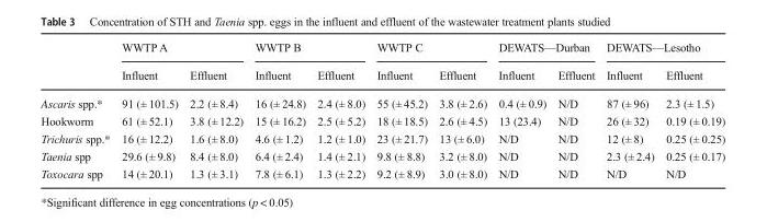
<table><thead><tr><td rowspan="2"></td><td colspan="2">WWTP A</td><td colspan="2">WWTP B</td><td colspan="2">WWTP C</td><td colspan="2">DEWATS—Durban</td><td colspan="2">DEWATS—Lesotho</td></tr><tr><td>Influent</td><td>Effluent</td><td>Influent</td><td>Effluent</td><td>Influent</td><td>Effluent</td><td>Influent</td><td>Effluent</td><td>Influent</td><td>Effluent</td></tr></thead><tbody><tr><td>Ascaris spp.*</td><td>91 (± 101.5)</td><td>2.2 (± 8.4)</td><td>16 (± 24.8)</td><td>2.4 (± 8.0)</td><td>55 (± 45.2)</td><td>3.8 (± 2.6)</td><td>0.4 (± 0.9)</td><td>N/D</td><td>87 (± 96)</td><td>2.3 (± 1.5)</td></tr><tr><td>Hookworm</td><td>61 (± 52.1)</td><td>3.8 (± 12.2)</td><td>15 (± 16.2)</td><td>2.5 (± 5.2)</td><td>18 (± 18.5)</td><td>2.6 (± 4.5)</td><td>13 (23.4)</td><td>N/D</td><td>26 (± 32)</td><td>0.19 (± 0.19)</td></tr><tr><td>Trichuris spp.*</td><td>16 (± 12.2)</td><td>1.6 (± 8.0)</td><td>4.6 (± 1.2)</td><td>1.2 (± 1.0)</td><td>23 (± 21.7)</td><td>13 (± 6.0)</td><td>N/D</td><td>N/D</td><td>12 (± 8)</td><td>0.25 (± 0.25)</td></tr><tr><td>Taenia spp</td><td>29.6 (± 9.8)</td><td>8.4 (± 8.0)</td><td>6.4 (± 2.4)</td><td>1.4 (± 2.1)</td><td>9.8 (± 8.8)</td><td>3.2 (± 8.0)</td><td>N/D</td><td>N/D</td><td>2.3 (± 2.4)</td><td>0.25 (± 0.17)</td></tr><tr><td>Toxocara spp</td><td>14 (± 20.1)</td><td>1.3 (± 3.1)</td><td>7.8 (± 6.1)</td><td>1.3 (± 2.2)</td><td>9.2 (± 8.9)</td><td>3.0 (± 8.0)</td><td>N/D</td><td>N/D</td><td>N/D</td><td>N/D</td></tr></tbody></table>